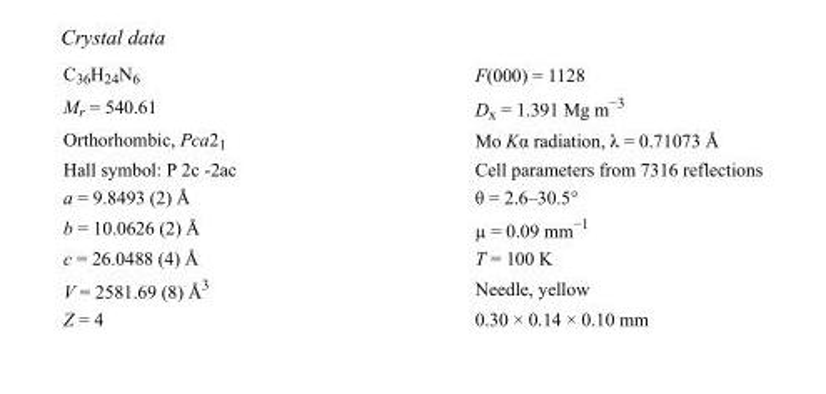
<table><tbody><tr><td>C<sub>36</sub>H<sub>24</sub>N<sub>6</sub></td><td>F(000) = 1128</td></tr><tr><td>M<sub>r</sub> = 540.61</td><td>D<sub>x</sub> = 1.391 Mg m<sup>−3</sup></td></tr><tr><td>Orthorhombic, Pca2<sub>1</sub></td><td>Mo Kα radiation, λ = 0.71073 Å</td></tr><tr><td>Hall symbol: P 2c -2ac</td><td>Cell parameters from 7316 reflections</td></tr><tr><td>a = 9.8493 (2) Å</td><td>θ = 2.6–30.5°</td></tr><tr><td>b = 10.0626 (2) Å</td><td>µ = 0.09 mm<sup>−1</sup></td></tr><tr><td>c = 26.0488 (4) Å</td><td>T = 100 K</td></tr><tr><td>V = 2581.69 (8) Å<sup>3</sup></td><td>Needle, yellow</td></tr><tr><td>Z = 4</td><td>0.30 × 0.14 × 0.10 mm</td></tr></tbody></table>